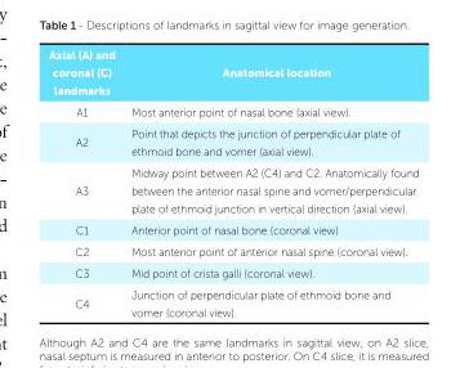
<table><thead><tr><td>Axial (A) and coronal (C) landmarks</td><td>Anatomical location</td></tr></thead><tbody><tr><td>A1</td><td>Most anterior point of nasal bone (axial view).</td></tr><tr><td>A2</td><td>Point that depicts the junction of perpendicular plate of ethmoid bone and vomer (axial view).</td></tr><tr><td>A3</td><td>Midway point between A2 (C4) and C2. Anatomically found between the anterior nasal spine and vomer/perpendicular plate of ethmoid junction in vertical direction (axial view).</td></tr><tr><td>C1</td><td>Anterior point of nasal bone (coronal view)</td></tr><tr><td>C2</td><td>Most anterior point of anterior nasal spine (coronal view).</td></tr><tr><td>C3</td><td>Mid point of crista galli (coronal view).</td></tr><tr><td>C4</td><td>Junction of perpendicular plate of ethmoid bone and vomer (coronal view).</td></tr></tbody></table>